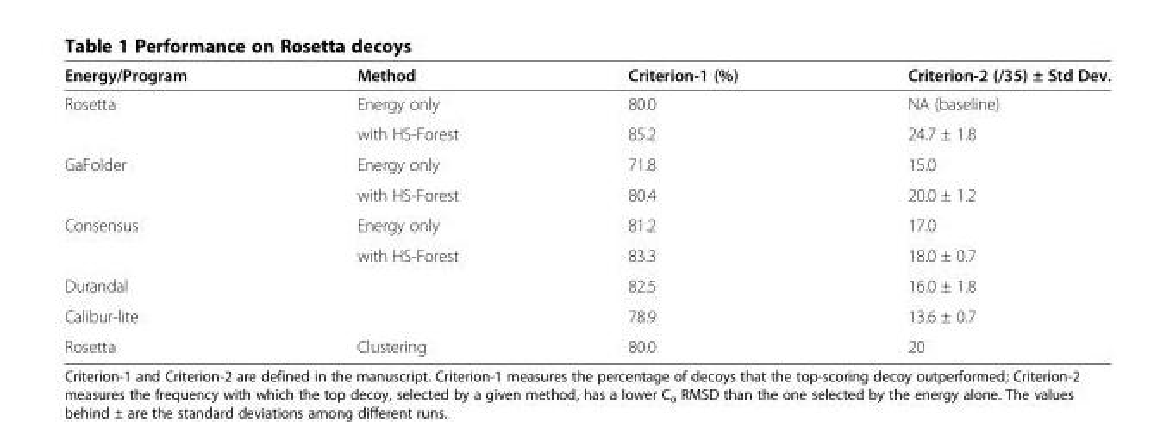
<table><thead><tr><td>Energy/Program</td><td>Method</td><td>Criterion-1 (%)</td><td>Criterion-2 (/35) ± Std Dev.</td></tr></thead><tbody><tr><td rowspan="2">Rosetta</td><td>Energy only</td><td>80.0</td><td>NA (baseline)</td></tr><tr><td>with HS-Forest</td><td>85.2</td><td>24.7 ± 1.8</td></tr><tr><td rowspan="2">GaFolder</td><td>Energy only</td><td>71.8</td><td>15.0</td></tr><tr><td>with HS-Forest</td><td>80.4</td><td>20.0 ± 1.2</td></tr><tr><td rowspan="2">Consensus</td><td>Energy only</td><td>81.2</td><td>17.0</td></tr><tr><td>with HS-Forest</td><td>83.3</td><td>18.0 ± 0.7</td></tr><tr><td>Durandal</td><td></td><td>82.5</td><td>16.0 ± 1.8</td></tr><tr><td>Calibur-lite</td><td></td><td>78.9</td><td>13.6 ± 0.7</td></tr><tr><td>Rosetta</td><td>Clustering</td><td>80.0</td><td>20</td></tr></tbody></table>